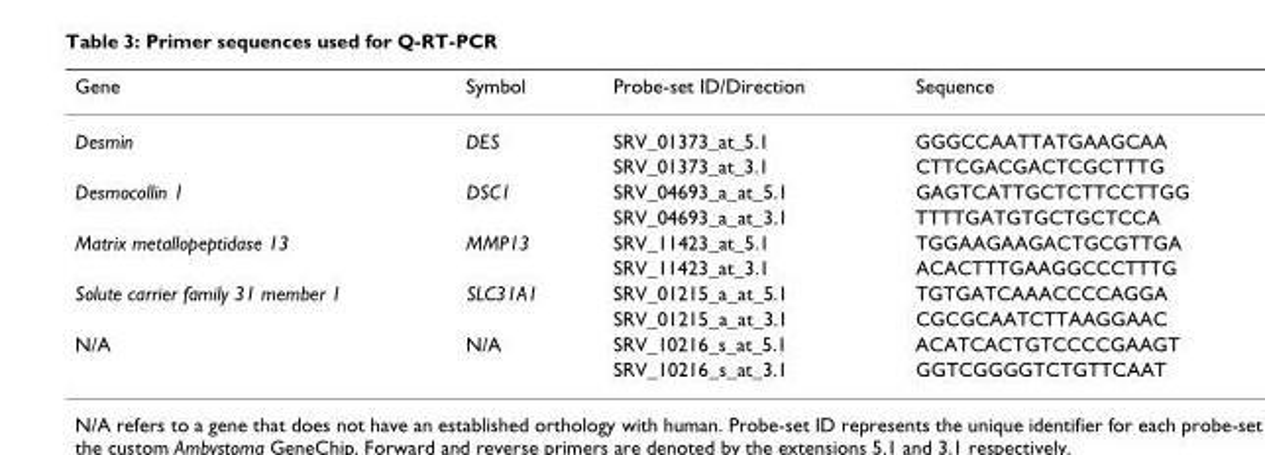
<table><thead><tr><td>Gene</td><td>Symbol</td><td>Probe-set ID/Direction</td><td>Sequence</td></tr></thead><tbody><tr><td rowspan="2">Desmin</td><td>DES</td><td>SRV_01373_at_5.1</td><td>GGGCCAATTATGAAGCAA</td></tr><tr><td></td><td>SRV_01373_at_3.1</td><td>CTTCGACGACTCGCTTTG</td></tr><tr><td rowspan="2">Desmocollin 1</td><td>DSC1</td><td>SRV_04693_a_at_5.1</td><td>GAGTCATTGCTCTTCCTTGG</td></tr><tr><td></td><td>SRV_04693_a_at_3.1</td><td>TTTTGATGTGCTGCTCCA</td></tr><tr><td rowspan="2">Matrix metallopeptidase 13</td><td>MMP13</td><td>SRV_11423_at_5.1</td><td>TGGAAGAAGACTGCGTTGA</td></tr><tr><td></td><td>SRV_11423_at_3.1</td><td>ACACTTTGAAGGCCCTTTG</td></tr><tr><td rowspan="2">Solute carrier family 31 member 1</td><td>SLC31A1</td><td>SRV_01215_a_at_5.1</td><td>TGTGATCAAACCCCAGGA</td></tr><tr><td></td><td>SRV_01215_a_at_3.1</td><td>CGCGCAATCTTAAGGAAC</td></tr><tr><td rowspan="2">N/A</td><td>N/A</td><td>SRV_10216_s_at_5.1</td><td>ACATCACTGTCCCCGAAGT</td></tr><tr><td></td><td>SRV_10216_s_at_3.1</td><td>GGTCGGGGTCTGTTCAAT</td></tr></tbody></table>